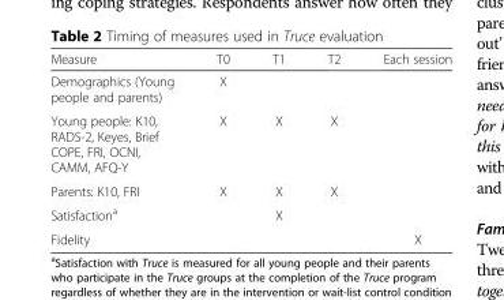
<table><thead><tr><td>Measure</td><td>T0</td><td>T1</td><td>T2</td><td>Each session</td></tr></thead><tbody><tr><td>Demographics (Young people and parents)</td><td>X</td><td></td><td></td><td></td></tr><tr><td>Young people: K10, RADS-2, Keyes, Brief COPE, FRI, OCNI, CAMM, AFQ-Y</td><td>X</td><td>X</td><td>X</td><td></td></tr><tr><td>Parents: K10, FRI</td><td>X</td><td>X</td><td>X</td><td></td></tr><tr><td>Satisfaction<sup>a</sup></td><td></td><td>X</td><td></td><td></td></tr><tr><td>Fidelity</td><td></td><td></td><td></td><td>X</td></tr></tbody></table>